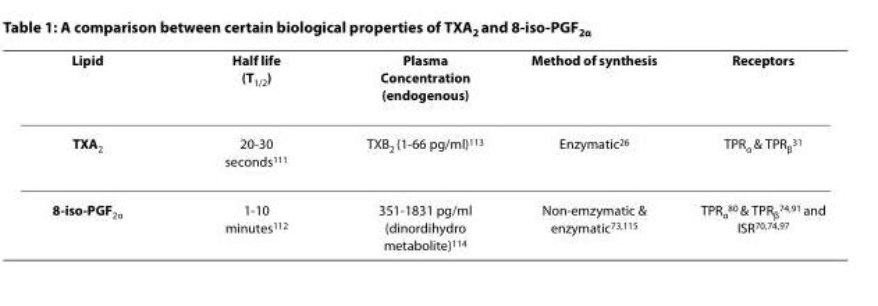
<table><thead><tr><td>Lipid</td><td>Half life (T<sub>1/2</sub>)</td><td>Plasma Concentration (endogenous)</td><td>Method of synthesis</td><td>Receptors</td></tr></thead><tbody><tr><td>TXA<sub>2</sub></td><td>20-30 seconds<sup>111</sup></td><td>TXB<sub>2</sub> (1-66 pg/ml)<sup>113</sup></td><td>Enzymatic<sup>26</sup></td><td>TPR<sub>α</sub> &amp; TPR<sub>β</sub><sup>31</sup></td></tr><tr><td>8-iso-PGF<sub>2α</sub></td><td>1-10 minutes<sup>112</sup></td><td>351-1831 pg/ml (dinordihydro metabolite)<sup>114</sup></td><td>Non-emzymatic &amp; enzymatic<sup>73,115</sup></td><td>TPR<sub>α</sub><sup>80</sup> &amp; TPR<sub>β</sub><sup>74,91</sup> and ISR<sup>70,74,97</sup></td></tr></tbody></table>